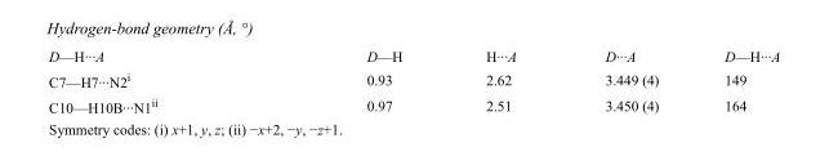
<table><tbody><tr><td>D—H···A</td><td>D—H</td><td>H···A</td><td>D···A</td><td>D—H···A</td></tr><tr><td>C7—H7···N2<sup>i</sup></td><td>0.93</td><td>2.62</td><td>3.449 (4)</td><td>149</td></tr><tr><td>C10—H10B···N1<sup>ii</sup></td><td>0.97</td><td>2.51</td><td>3.450 (4)</td><td>164</td></tr></tbody></table>